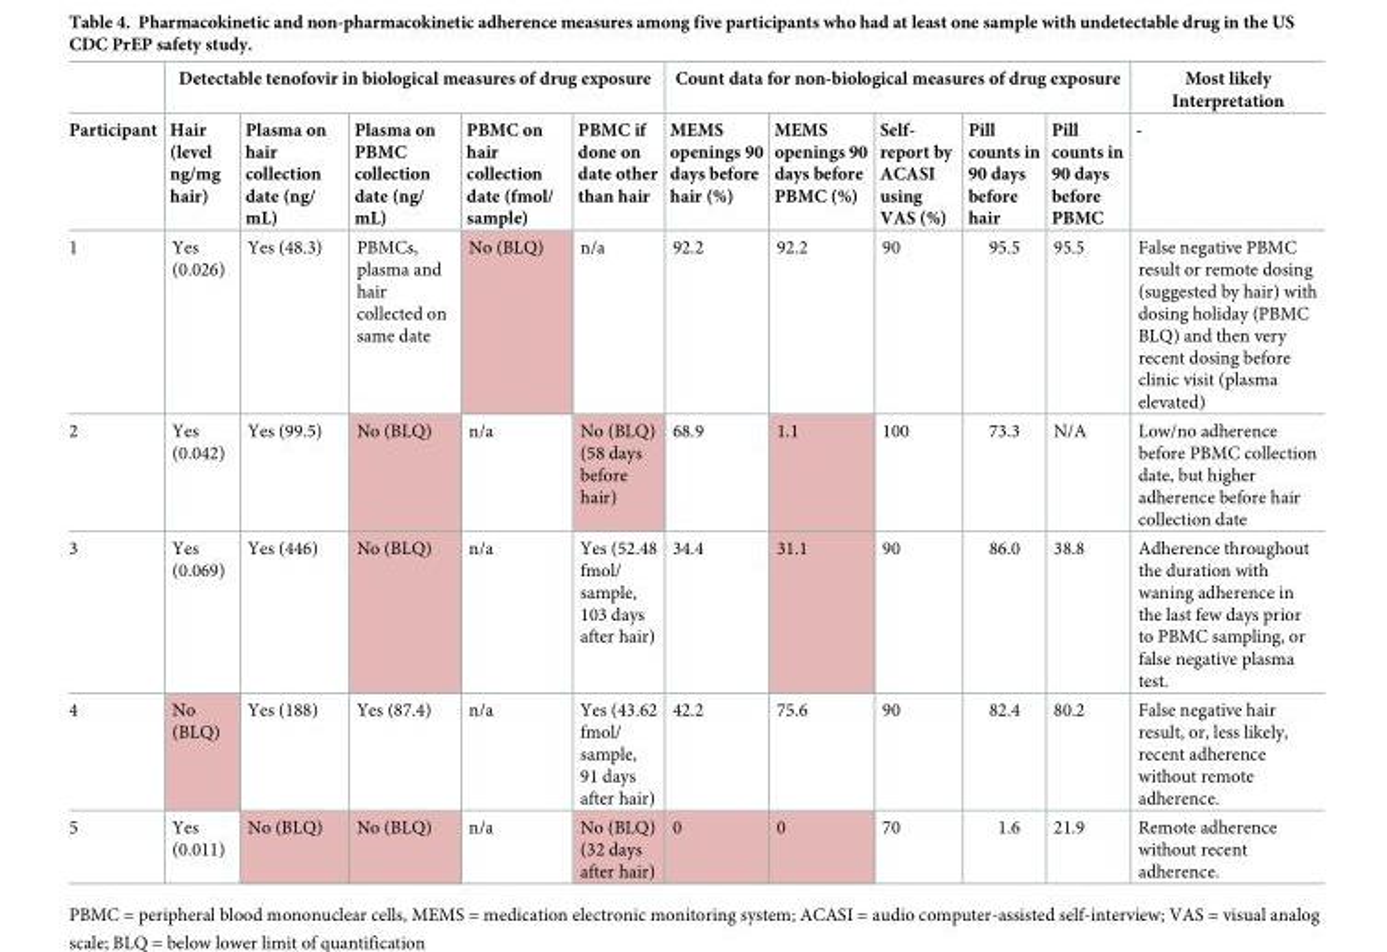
<table><thead><tr><td rowspan="2">Participant</td><td colspan="5">Detectable tenofovir in biological measures of drug exposure</td><td colspan="5">Count data for non-biological measures of drug exposure</td><td rowspan="2">Most likely Interpretation -</td></tr><tr><td>Hair (level ng/mg hair)</td><td>Plasma on hair collection date (ng/ mL)</td><td>Plasma on PBMC collection date (ng/ mL)</td><td>PBMC on hair collection date (fmol/ sample)</td><td>PBMC if done on date other than hair</td><td>MEMS openings 90 days before hair (%)</td><td>MEMS openings 90 days before PBMC (%)</td><td>Self- report by ACASI using VAS (%)</td><td>Pill counts in 90 days before hair</td><td>Pill counts in 90 days before PBMC</td></tr></thead><tbody><tr><td>1</td><td>Yes (0.026)</td><td>Yes (48.3)</td><td>PBMCs, plasma and hair collected on same date</td><td>No (BLQ)</td><td>n/a</td><td>92.2</td><td>92.2</td><td>90</td><td>95.5</td><td>95.5</td><td>False negative PBMC result or remote dosing (suggested by hair) with dosing holiday (PBMC BLQ) and then very recent dosing before clinic visit (plasma elevated)</td></tr><tr><td>2</td><td>Yes (0.042)</td><td>Yes (99.5)</td><td>No (BLQ)</td><td>n/a</td><td>No (BLQ) (58 days before hair)</td><td>68.9</td><td>1.1</td><td>100</td><td>73.3</td><td>N/A</td><td>Low/no adherence before PBMC collection date, but higher adherence before hair collection date</td></tr><tr><td>3</td><td>Yes (0.069)</td><td>Yes (446)</td><td>No (BLQ)</td><td>n/a</td><td>Yes (52.48 fmol/ sample, 103 days after hair)</td><td>34.4</td><td>31.1</td><td>90</td><td>86.0</td><td>38.8</td><td>Adherence throughout the duration with waning adherence in the last few days prior to PBMC sampling, or false negative plasma test.</td></tr><tr><td>4</td><td>No (BLQ)</td><td>Yes (188)</td><td>Yes (87.4)</td><td>n/a</td><td>Yes (43.62 fmol/ sample, 91 days after hair)</td><td>42.2</td><td>75.6</td><td>90</td><td>82.4</td><td>80.2</td><td>False negative hair result, or, less likely, recent adherence without remote adherence.</td></tr><tr><td>5</td><td>Yes (0.011)</td><td>No (BLQ)</td><td>No (BLQ)</td><td>n/a</td><td>No (BLQ) (32 days after hair)</td><td>0</td><td>0</td><td>70</td><td>1.6</td><td>21.9</td><td>Remote adherence without recent adherence.</td></tr></tbody></table>